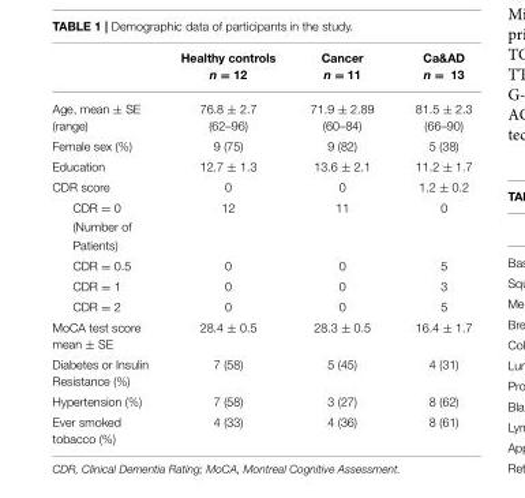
<table><thead><tr><td></td><td>Healthy controls n = 12</td><td>Cancer n = 11</td><td>Ca&amp;AD n = 13</td></tr></thead><tbody><tr><td>Age, mean ± SE (range)</td><td>76.8 ± 2.7 (62–96)</td><td>71.9 ± 2.89 (60–84)</td><td>81.5 ± 2.3 (66–90)</td></tr><tr><td>Female sex (%)</td><td>9 (75)</td><td>9 (82)</td><td>5 (38)</td></tr><tr><td>Education</td><td>12.7 ± 1.3</td><td>13.6 ± 2.1</td><td>11.2 ± 1.7</td></tr><tr><td>CDR score</td><td>0</td><td>0</td><td>1.2 ± 0.2</td></tr><tr><td>CDR = 0</td><td>12</td><td>11</td><td>0</td></tr><tr><td colspan="4">(Number of Patients)</td></tr><tr><td>CDR = 0.5</td><td>0</td><td>0</td><td>5</td></tr><tr><td>CDR = 1</td><td>0</td><td>0</td><td>3</td></tr><tr><td>CDR = 2</td><td>0</td><td>0</td><td>5</td></tr><tr><td>MoCA test score mean ± SE</td><td>28.4 ± 0.5</td><td>28.3 ± 0.5</td><td>16.4 ± 1.7</td></tr><tr><td>Diabetes or Insulin Resistance (%)</td><td>7 (58)</td><td>5 (45)</td><td>4 (31)</td></tr><tr><td>Hypertension (%)</td><td>7 (58)</td><td>3 (27)</td><td>8 (62)</td></tr><tr><td>Ever smoked tobacco (%)</td><td>4 (33)</td><td>4 (36)</td><td>8 (61)</td></tr></tbody></table>